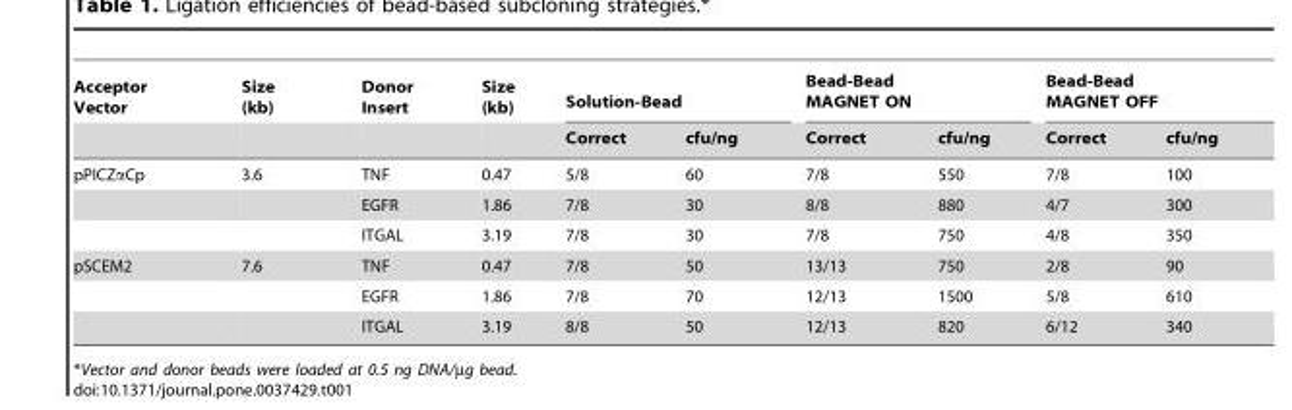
<table><thead><tr><td rowspan="2">Acceptor Vector</td><td rowspan="2">Size (kb)</td><td rowspan="2">Donor Insert</td><td rowspan="2">Size (kb)</td><td colspan="2">Solution-Bead</td><td colspan="2">Bead-Bead MAGNET ON</td><td colspan="2">Bead-Bead MAGNET OFF</td></tr><tr><td>Correct</td><td>cfu/ng</td><td>Correct</td><td>cfu/ng</td><td>Correct</td><td>cfu/ng</td></tr></thead><tbody><tr><td rowspan="3">pPICZαCp</td><td>3.6</td><td>TNF</td><td>0.47</td><td>5/8</td><td>60</td><td>7/8</td><td>550</td><td>7/8</td><td>100</td></tr><tr><td></td><td>EGFR</td><td>1.86</td><td>7/8</td><td>30</td><td>8/8</td><td>880</td><td>4/7</td><td>300</td></tr><tr><td></td><td>ITGAL</td><td>3.19</td><td>7/8</td><td>30</td><td>7/8</td><td>750</td><td>4/8</td><td>350</td></tr><tr><td rowspan="3">pSCEM2</td><td>7.6</td><td>TNF</td><td>0.47</td><td>7/8</td><td>50</td><td>13/13</td><td>750</td><td>2/8</td><td>90</td></tr><tr><td></td><td>EGFR</td><td>1.86</td><td>7/8</td><td>70</td><td>12/13</td><td>1500</td><td>5/8</td><td>610</td></tr><tr><td></td><td>ITGAL</td><td>3.19</td><td>8/8</td><td>50</td><td>12/13</td><td>820</td><td>6/12</td><td>340</td></tr></tbody></table>